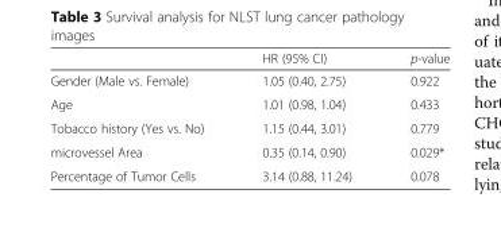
<table><thead><tr><td></td><td>HR (95% CI)</td><td>p-value</td></tr></thead><tbody><tr><td>Gender (Male vs. Female)</td><td>1.05 (0.40, 2.75)</td><td>0.922</td></tr><tr><td>Age</td><td>1.01 (0.98, 1.04)</td><td>0.433</td></tr><tr><td>Tobacco history (Yes vs. No)</td><td>1.15 (0.44, 3.01)</td><td>0.779</td></tr><tr><td>microvessel Area</td><td>0.35 (0.14, 0.90)</td><td>0.029*</td></tr><tr><td>Percentage of Tumor Cells</td><td>3.14 (0.88, 11.24)</td><td>0.078</td></tr></tbody></table>